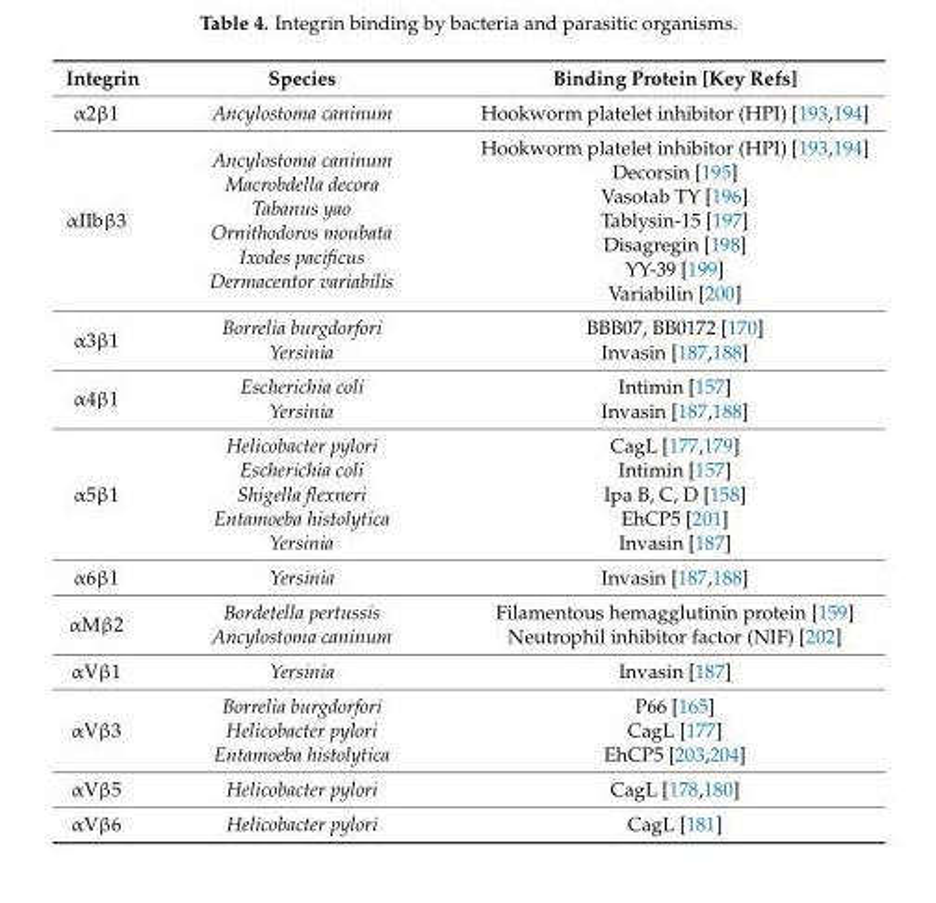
<table><thead><tr><td>Integrin</td><td>Species</td><td>Binding Protein [Key Refs]</td></tr></thead><tbody><tr><td>α2β1</td><td>Ancylostoma caninum</td><td>Hookworm platelet inhibitor (HPI) [193,194]</td></tr><tr><td>αIIbβ3</td><td>Ancylostoma caninum Macrobdella decora Tabanus yao Ornithodoros moubata Ixodes pacificus Dermacentor variabilis</td><td>Hookworm platelet inhibitor (HPI) [193,194] Decorsin [195] Vasotab TY [196] Tablysin-15 [197] Disagregin [198] YY-39 [199] Variabilin [200]</td></tr><tr><td>α3β1</td><td>Borrelia burgdorfori Yersinia</td><td>BBB07, BB0172 [170] Invasin [187,188]</td></tr><tr><td>α4β1</td><td>Escherichia coli Yersinia</td><td>Intimin [157] Invasin [187,188]</td></tr><tr><td>α5β1</td><td>Helicobacter pylori Escherichia coli Shigella flexneri Entamoeba histolytica Yersinia</td><td>CagL [177,179] Intimin [157] Ipa B, C, D [158] EhCP5 [201] Invasin [187]</td></tr><tr><td>α6β1</td><td>Yersinia</td><td>Invasin [187,188]</td></tr><tr><td>αMβ2</td><td>Bordetella pertussis Ancylostoma caninum</td><td>Filamentous hemagglutinin protein [159] Neutrophil inhibitor factor (NIF) [202]</td></tr><tr><td>αVβ1</td><td>Yersinia</td><td>Invasin [187]</td></tr><tr><td>αVβ3</td><td>Borrelia burgdorfori Helicobacter pylori Entamoeba histolytica</td><td>P66 [165] CagL [177] EhCP5 [203,204]</td></tr><tr><td>αVβ5</td><td>Helicobacter pylori</td><td>CagL [178,180]</td></tr><tr><td>αVβ6</td><td>Helicobacter pylori</td><td>CagL [181]</td></tr></tbody></table>